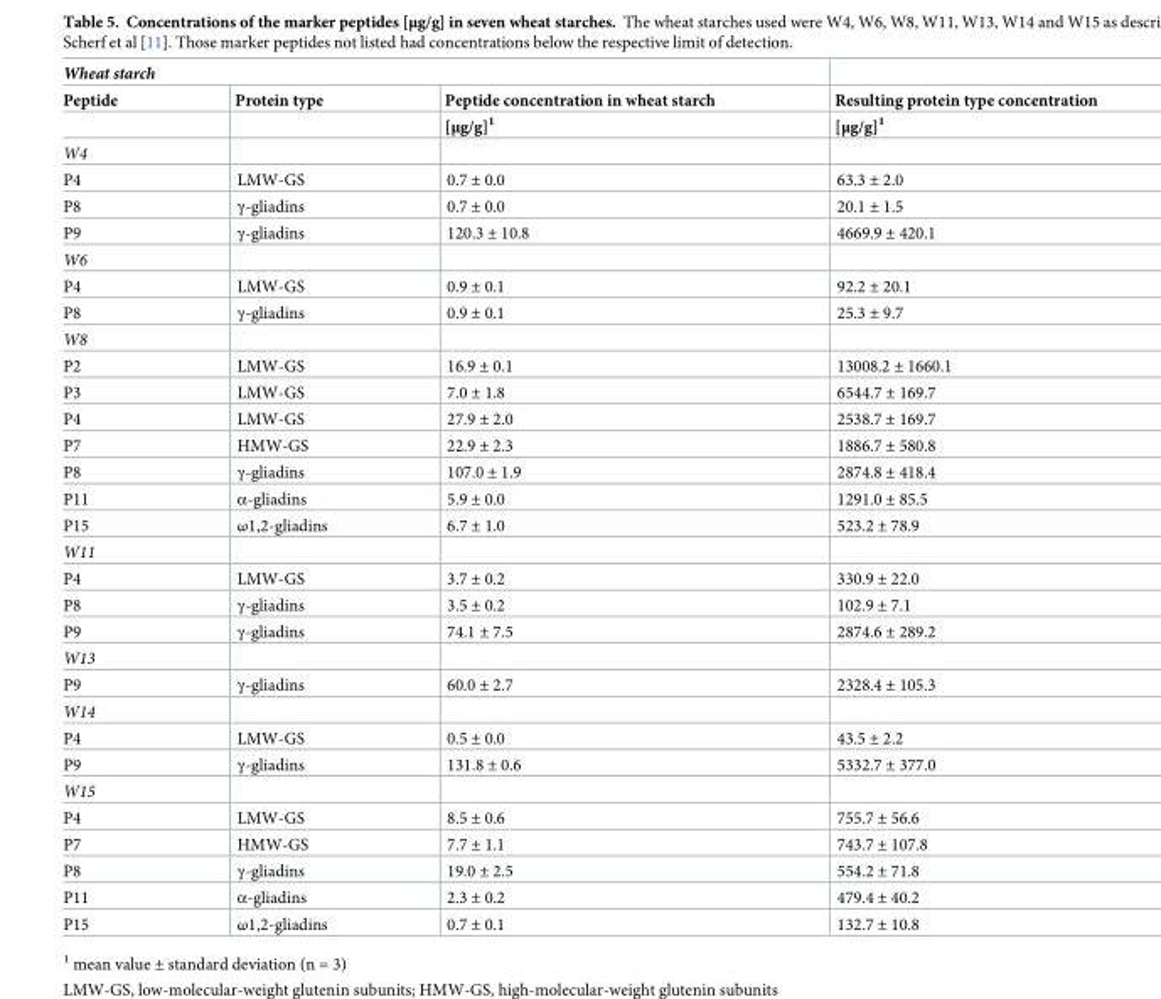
<table><thead><tr><td colspan="3">Wheat starch</td><td rowspan="3">Resulting protein type concentration [μg/g]<sup>1</sup></td></tr><tr><td rowspan="2">Peptide</td><td rowspan="2">Protein type</td><td rowspan="2">Peptide concentration in wheat starch [μg/g]<sup>1</sup></td></tr><tr></tr></thead><tbody><tr><td colspan="4">W4</td></tr><tr><td>P4</td><td>LMW-GS</td><td>0.7 ± 0.0</td><td>63.3 ± 2.0</td></tr><tr><td>P8</td><td>γ-gliadins</td><td>0.7 ± 0.0</td><td>20.1 ± 1.5</td></tr><tr><td>P9</td><td>γ-gliadins</td><td>120.3 ± 10.8</td><td>4669.9 ± 420.1</td></tr><tr><td colspan="4">W6</td></tr><tr><td>P4</td><td>LMW-GS</td><td>0.9 ± 0.1</td><td>92.2 ± 20.1</td></tr><tr><td>P8</td><td>γ-gliadins</td><td>0.9 ± 0.1</td><td>25.3 ± 9.7</td></tr><tr><td colspan="4">W8</td></tr><tr><td>P2</td><td>LMW-GS</td><td>16.9 ± 0.1</td><td>13008.2 ± 1660.1</td></tr><tr><td>P3</td><td>LMW-GS</td><td>7.0 ± 1.8</td><td>6544.7 ± 169.7</td></tr><tr><td>P4</td><td>LMW-GS</td><td>27.9 ± 2.0</td><td>2538.7 ± 169.7</td></tr><tr><td>P7</td><td>HMW-GS</td><td>22.9 ± 2.3</td><td>1886.7 ± 580.8</td></tr><tr><td>P8</td><td>γ-gliadins</td><td>107.0 ± 1.9</td><td>2874.8 ± 418.4</td></tr><tr><td>P11</td><td>α-gliadins</td><td>5.9 ± 0.0</td><td>1291.0 ± 85.5</td></tr><tr><td>P15</td><td>ω1,2-gliadins</td><td>6.7 ± 1.0</td><td>523.2 ± 78.9</td></tr><tr><td colspan="4">W11</td></tr><tr><td>P4</td><td>LMW-GS</td><td>3.7 ± 0.2</td><td>330.9 ± 22.0</td></tr><tr><td>P8</td><td>γ-gliadins</td><td>3.5 ± 0.2</td><td>102.9 ± 7.1</td></tr><tr><td>P9</td><td>γ-gliadins</td><td>74.1 ± 7.5</td><td>2874.6 ± 289.2</td></tr><tr><td colspan="4">W13</td></tr><tr><td>P9</td><td>γ-gliadins</td><td>60.0 ± 2.7</td><td>2328.4 ± 105.3</td></tr><tr><td colspan="4">W14</td></tr><tr><td>P4</td><td>LMW-GS</td><td>0.5 ± 0.0</td><td>43.5 ± 2.2</td></tr><tr><td>P9</td><td>γ-gliadins</td><td>131.8 ± 0.6</td><td>5332.7 ± 377.0</td></tr><tr><td colspan="4">W15</td></tr><tr><td>P4</td><td>LMW-GS</td><td>8.5 ± 0.6</td><td>755.7 ± 56.6</td></tr><tr><td>P7</td><td>HMW-GS</td><td>7.7 ± 1.1</td><td>743.7 ± 107.8</td></tr><tr><td>P8</td><td>γ-gliadins</td><td>19.0 ± 2.5</td><td>554.2 ± 71.8</td></tr><tr><td>P11</td><td>α-gliadins</td><td>2.3 ± 0.2</td><td>479.4 ± 40.2</td></tr><tr><td>P15</td><td>ω1,2-gliadins</td><td>0.7 ± 0.1</td><td>132.7 ± 10.8</td></tr></tbody></table>